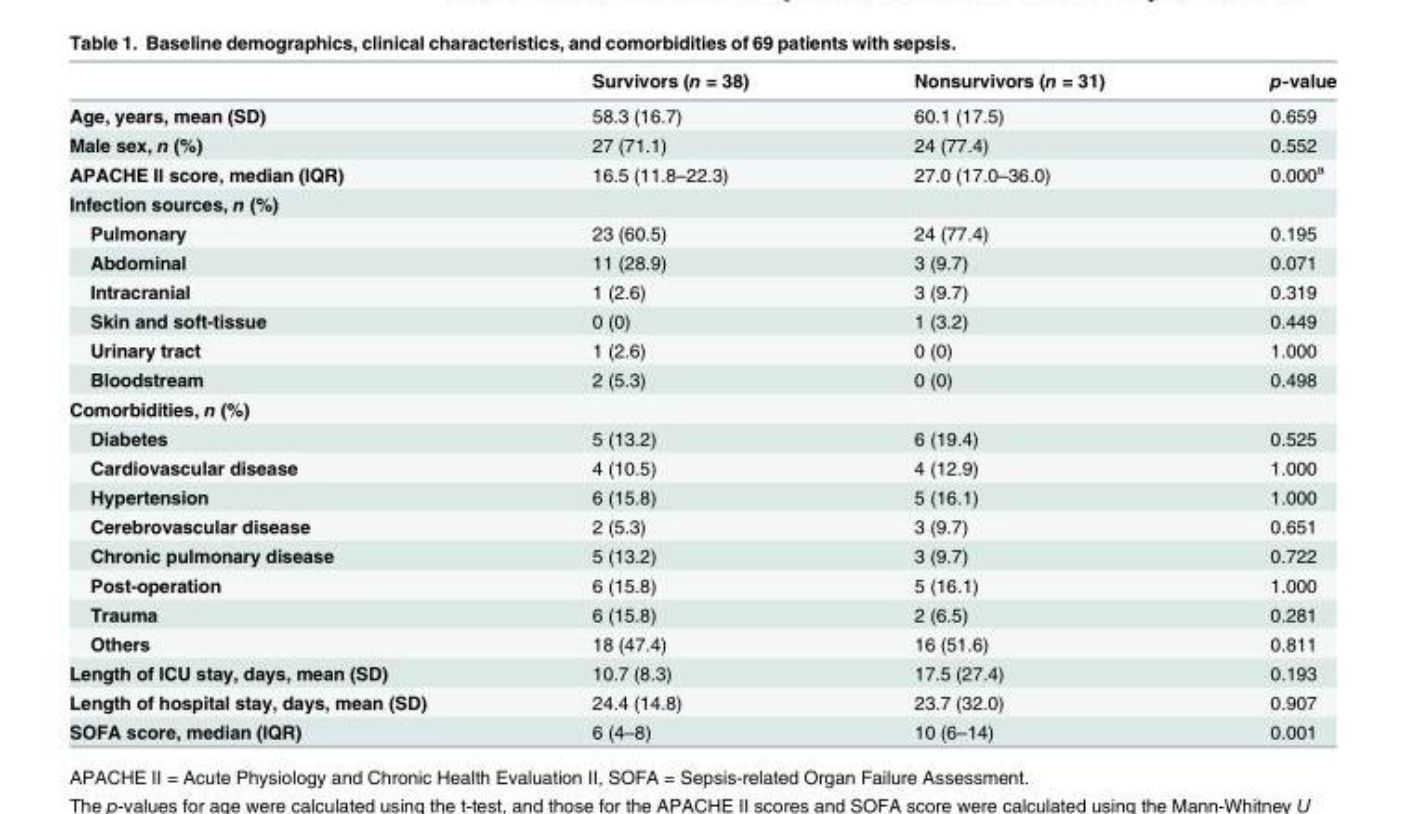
<table><thead><tr><td></td><td>Survivors (n = 38)</td><td>Nonsurvivors (n = 31)</td><td>p-value</td></tr></thead><tbody><tr><td>Age, years, mean (SD)</td><td>58.3 (16.7)</td><td>60.1 (17.5)</td><td>0.659</td></tr><tr><td>Male sex, n (%)</td><td>27 (71.1)</td><td>24 (77.4)</td><td>0.552</td></tr><tr><td>APACHE II score, median (IQR)</td><td>16.5 (11.8–22.3)</td><td>27.0 (17.0–36.0)</td><td>0.000<sup>a</sup></td></tr><tr><td colspan="4">Infection sources, n (%)</td></tr><tr><td>Pulmonary</td><td>23 (60.5)</td><td>24 (77.4)</td><td>0.195</td></tr><tr><td>Abdominal</td><td>11 (28.9)</td><td>3 (9.7)</td><td>0.071</td></tr><tr><td>Intracranial</td><td>1 (2.6)</td><td>3 (9.7)</td><td>0.319</td></tr><tr><td>Skin and soft-tissue</td><td>0 (0)</td><td>1 (3.2)</td><td>0.449</td></tr><tr><td>Urinary tract</td><td>1 (2.6)</td><td>0 (0)</td><td>1.000</td></tr><tr><td>Bloodstream</td><td>2 (5.3)</td><td>0 (0)</td><td>0.498</td></tr><tr><td colspan="4">Comorbidities, n (%)</td></tr><tr><td>Diabetes</td><td>5 (13.2)</td><td>6 (19.4)</td><td>0.525</td></tr><tr><td>Cardiovascular disease</td><td>4 (10.5)</td><td>4 (12.9)</td><td>1.000</td></tr><tr><td>Hypertension</td><td>6 (15.8)</td><td>5 (16.1)</td><td>1.000</td></tr><tr><td>Cerebrovascular disease</td><td>2 (5.3)</td><td>3 (9.7)</td><td>0.651</td></tr><tr><td>Chronic pulmonary disease</td><td>5 (13.2)</td><td>3 (9.7)</td><td>0.722</td></tr><tr><td>Post-operation</td><td>6 (15.8)</td><td>5 (16.1)</td><td>1.000</td></tr><tr><td>Trauma</td><td>6 (15.8)</td><td>2 (6.5)</td><td>0.281</td></tr><tr><td>Others</td><td>18 (47.4)</td><td>16 (51.6)</td><td>0.811</td></tr><tr><td>Length of ICU stay, days, mean (SD)</td><td>10.7 (8.3)</td><td>17.5 (27.4)</td><td>0.193</td></tr><tr><td>Length of hospital stay, days, mean (SD)</td><td>24.4 (14.8)</td><td>23.7 (32.0)</td><td>0.907</td></tr><tr><td>SOFA score, median (IQR)</td><td>6 (4–8)</td><td>10 (6–14)</td><td>0.001</td></tr></tbody></table>